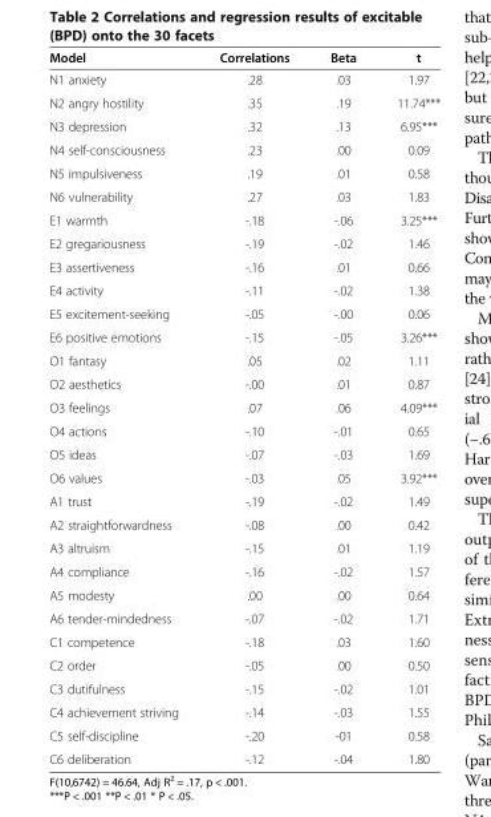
<table><thead><tr><td>Model</td><td>Correlations</td><td>Beta</td><td>t</td></tr></thead><tbody><tr><td>N1 anxiety</td><td>.28</td><td>.03</td><td>1.97</td></tr><tr><td>N2 angry hostility</td><td>.35</td><td>.19</td><td>11.74***</td></tr><tr><td>N3 depression</td><td>.32</td><td>.13</td><td>6.95***</td></tr><tr><td>N4 self-consciousness</td><td>.23</td><td>.00</td><td>0.09</td></tr><tr><td>N5 impulsiveness</td><td>.19</td><td>.01</td><td>0.58</td></tr><tr><td>N6 vulnerability</td><td>.27</td><td>.03</td><td>1.83</td></tr><tr><td>E1 warmth</td><td>-.18</td><td>-.06</td><td>3.25***</td></tr><tr><td>E2 gregariousness</td><td>-.19</td><td>-.02</td><td>1.46</td></tr><tr><td>E3 assertiveness</td><td>-.16</td><td>.01</td><td>0.66</td></tr><tr><td>E4 activity</td><td>-.11</td><td>-.02</td><td>1.38</td></tr><tr><td>E5 excitement-seeking</td><td>-.05</td><td>-.00</td><td>0.06</td></tr><tr><td>E6 positive emotions</td><td>-.15</td><td>-.05</td><td>3.26***</td></tr><tr><td>O1 fantasy</td><td>.05</td><td>.02</td><td>1.11</td></tr><tr><td>O2 aesthetics</td><td>-.00</td><td>.01</td><td>0.87</td></tr><tr><td>O3 feelings</td><td>.07</td><td>.06</td><td>4.09***</td></tr><tr><td>O4 actions</td><td>-.10</td><td>-.01</td><td>0.65</td></tr><tr><td>O5 ideas</td><td>-.07</td><td>-.03</td><td>1.69</td></tr><tr><td>O6 values</td><td>-.03</td><td>.05</td><td>3.92***</td></tr><tr><td>A1 trust</td><td>-.19</td><td>-.02</td><td>1.49</td></tr><tr><td>A2 straightforwardness</td><td>-.08</td><td>.00</td><td>0.42</td></tr><tr><td>A3 altruism</td><td>-.15</td><td>.01</td><td>1.19</td></tr><tr><td>A4 compliance</td><td>-.16</td><td>-.02</td><td>1.57</td></tr><tr><td>A5 modesty</td><td>.00</td><td>.00</td><td>0.64</td></tr><tr><td>A6 tender-mindedness</td><td>-.07</td><td>-.02</td><td>1.71</td></tr><tr><td>C1 competence</td><td>-.18</td><td>.03</td><td>1.60</td></tr><tr><td>C2 order</td><td>-.05</td><td>.00</td><td>0.50</td></tr><tr><td>C3 dutifulness</td><td>-.15</td><td>-.02</td><td>1.01</td></tr><tr><td>C4 achievement striving</td><td>-.14</td><td>-.03</td><td>1.55</td></tr><tr><td>C5 self-discipline</td><td>-.20</td><td>-01</td><td>0.58</td></tr><tr><td>C6 deliberation</td><td>-.12</td><td>-.04</td><td>1.80</td></tr></tbody></table>